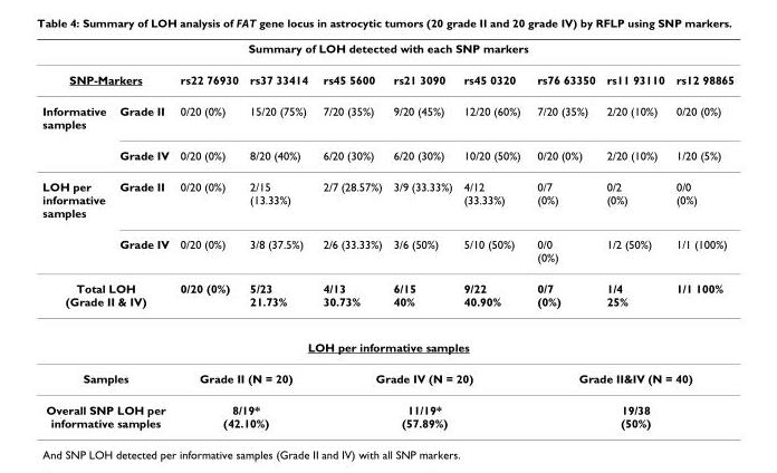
<table><thead><tr><td colspan="10">Summary of LOH detected with each SNP markers</td></tr><tr><td colspan="2">SNP-Markers</td><td rowspan="2">rs22 76930 0/20 (0%)</td><td rowspan="2">rs37 33414 15/20 (75%)</td><td rowspan="2">rs45 5600 7/20 (35%)</td><td rowspan="2">rs21 3090 9/20 (45%)</td><td rowspan="2">rs45 0320 12/20 (60%)</td><td rowspan="2">rs76 63350 7/20 (35%)</td><td rowspan="2">rs11 93110 2/20 (10%)</td><td rowspan="2">rs12 98865 0/20 (0%)</td></tr><tr><td>Informative samples</td><td>Grade II</td></tr></thead><tbody><tr><td></td><td>Grade IV</td><td>0/20 (0%)</td><td>8/20 (40%)</td><td>6/20 (30%)</td><td>6/20 (30%)</td><td>10/20 (50%)</td><td>0/20 (0%)</td><td>2/20 (10%)</td><td>1/20 (5%)</td></tr><tr><td rowspan="2">LOH per informative samples</td><td>Grade II</td><td>0/20 (0%)</td><td>2/15 (13.33%)</td><td>2/7 (28.57%)</td><td>3/9 (33.33%)</td><td>4/12 (33.33%)</td><td>0/7 (0%)</td><td>0/2 (0%)</td><td>0/0 (0%)</td></tr><tr><td>Grade IV</td><td>0/20 (0%)</td><td>3/8 (37.5%)</td><td>2/6 (33.33%)</td><td>3/6 (50%)</td><td>5/10 (50%)</td><td>0/0 (0%)</td><td>1/2 (50%)</td><td>1/1 (100%)</td></tr><tr><td colspan="2">Total LOH (Grade II &amp; IV)</td><td>0/20 (0%)</td><td>5/23 21.73%</td><td>4/13 30.73%</td><td>6/15 40%</td><td>9/22 40.90%</td><td>0/7 (0%)</td><td>1/4 25%</td><td>1/1 100%</td></tr><tr><td colspan="10">LOH per informative samples</td></tr><tr><td colspan="2">Samples</td><td colspan="2">Grade II (N = 20)</td><td colspan="3">Grade IV (N = 20)</td><td colspan="3">Grade II&amp;IV (N = 40)</td></tr><tr><td colspan="2">Overall SNP LOH per informative samples</td><td colspan="2">8/19* (42.10%)</td><td colspan="3">11/19* (57.89%)</td><td colspan="3">19/38 (50%)</td></tr></tbody></table>